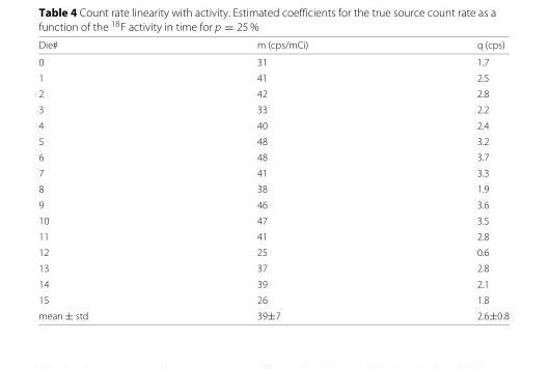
<table><thead><tr><td>Die#</td><td>m (cps/mCi)</td><td>q (cps)</td></tr></thead><tbody><tr><td>0</td><td>31</td><td>1.7</td></tr><tr><td>1</td><td>41</td><td>2.5</td></tr><tr><td>2</td><td>42</td><td>2.8</td></tr><tr><td>3</td><td>33</td><td>2.2</td></tr><tr><td>4</td><td>40</td><td>2.4</td></tr><tr><td>5</td><td>48</td><td>3.2</td></tr><tr><td>6</td><td>48</td><td>3.7</td></tr><tr><td>7</td><td>41</td><td>3.3</td></tr><tr><td>8</td><td>38</td><td>1.9</td></tr><tr><td>9</td><td>46</td><td>3.6</td></tr><tr><td>10</td><td>47</td><td>3.5</td></tr><tr><td>11</td><td>41</td><td>2.8</td></tr><tr><td>12</td><td>25</td><td>0.6</td></tr><tr><td>13</td><td>37</td><td>2.8</td></tr><tr><td>14</td><td>39</td><td>2.1</td></tr><tr><td>15</td><td>26</td><td>1.8</td></tr><tr><td>mean ± std</td><td>39±7</td><td>2.6±0.8</td></tr></tbody></table>